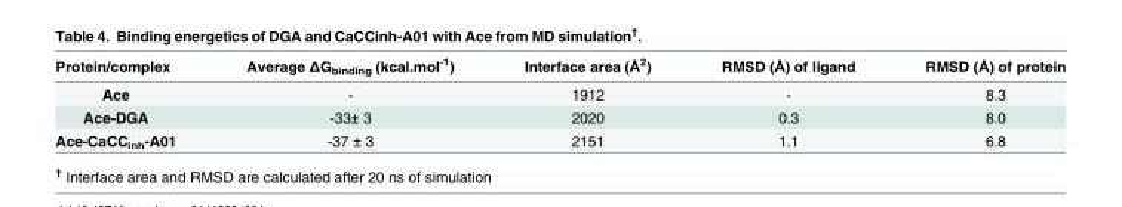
<table><thead><tr><td>Protein/complex</td><td>Average ΔG<sub>binding</sub> (kcal.mol<sup>-1</sup>)</td><td>Interface area (Å<sup>2</sup>)</td><td>RMSD (Å) of ligand</td><td>RMSD (Å) of protein</td></tr></thead><tbody><tr><td>Ace</td><td>-</td><td>1912</td><td>-</td><td>8.3</td></tr><tr><td>Ace-DGA</td><td>-33± 3</td><td>2020</td><td>0.3</td><td>8.0</td></tr><tr><td>Ace-CaCC<sub>inh</sub>-A01</td><td>-37 ± 3</td><td>2151</td><td>1.1</td><td>6.8</td></tr></tbody></table>